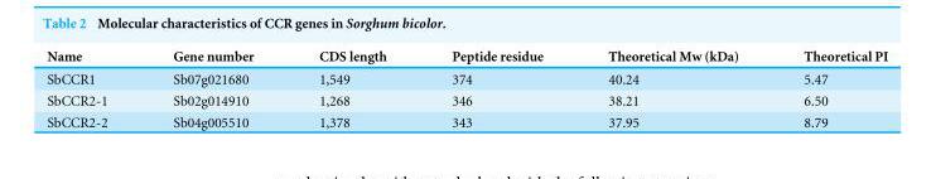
<table><thead><tr><td>Name</td><td>Gene number</td><td>CDS length</td><td>Peptide residue</td><td>Theoretical Mw (kDa)</td><td>Theoretical PI</td></tr></thead><tbody><tr><td>SbCCR1</td><td>Sb07g021680</td><td>1,549</td><td>374</td><td>40.24</td><td>5.47</td></tr><tr><td>SbCCR2-1</td><td>Sb02g014910</td><td>1,268</td><td>346</td><td>38.21</td><td>6.50</td></tr><tr><td>SbCCR2-2</td><td>Sb04g005510</td><td>1,378</td><td>343</td><td>37.95</td><td>8.79</td></tr></tbody></table>